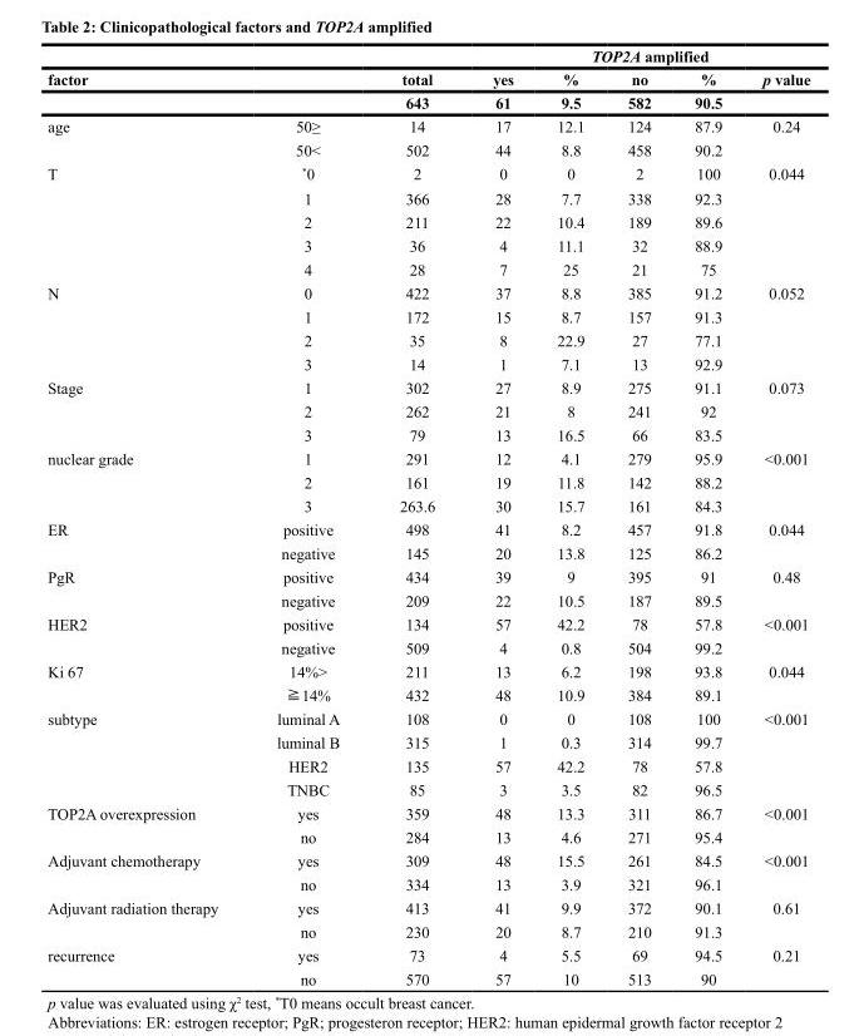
<table><thead><tr><td rowspan="3">factor</td><td rowspan="3"></td><td rowspan="3">total 643</td><td colspan="5">TOP2A amplified</td></tr><tr><td rowspan="2">yes 61</td><td rowspan="2">% 9.5</td><td rowspan="2">no 582</td><td rowspan="2">% 90.5</td><td rowspan="2">p value</td></tr><tr></tr></thead><tbody><tr><td rowspan="2">age</td><td>50≥</td><td>14</td><td>17</td><td>12.1</td><td>124</td><td>87.9</td><td>0.24</td></tr><tr><td>50&lt;</td><td>502</td><td>44</td><td>8.8</td><td>458</td><td>90.2</td><td></td></tr><tr><td rowspan="5">T</td><td>*0</td><td>2</td><td>0</td><td>0</td><td>2</td><td>100</td><td>0.044</td></tr><tr><td>1</td><td>366</td><td>28</td><td>7.7</td><td>338</td><td>92.3</td><td></td></tr><tr><td>2</td><td>211</td><td>22</td><td>10.4</td><td>189</td><td>89.6</td><td></td></tr><tr><td>3</td><td>36</td><td>4</td><td>11.1</td><td>32</td><td>88.9</td><td></td></tr><tr><td>4</td><td>28</td><td>7</td><td>25</td><td>21</td><td>75</td><td></td></tr><tr><td rowspan="4">N</td><td>0</td><td>422</td><td>37</td><td>8.8</td><td>385</td><td>91.2</td><td>0.052</td></tr><tr><td>1</td><td>172</td><td>15</td><td>8.7</td><td>157</td><td>91.3</td><td></td></tr><tr><td>2</td><td>35</td><td>8</td><td>22.9</td><td>27</td><td>77.1</td><td></td></tr><tr><td>3</td><td>14</td><td>1</td><td>7.1</td><td>13</td><td>92.9</td><td></td></tr><tr><td rowspan="3">Stage</td><td>1</td><td>302</td><td>27</td><td>8.9</td><td>275</td><td>91.1</td><td>0.073</td></tr><tr><td>2</td><td>262</td><td>21</td><td>8</td><td>241</td><td>92</td><td></td></tr><tr><td>3</td><td>79</td><td>13</td><td>16.5</td><td>66</td><td>83.5</td><td></td></tr><tr><td rowspan="3">nuclear grade</td><td>1</td><td>291</td><td>12</td><td>4.1</td><td>279</td><td>95.9</td><td>&lt;0.001</td></tr><tr><td>2</td><td>161</td><td>19</td><td>11.8</td><td>142</td><td>88.2</td><td></td></tr><tr><td>3</td><td>263.6</td><td>30</td><td>15.7</td><td>161</td><td>84.3</td><td></td></tr><tr><td rowspan="2">ER</td><td>positive</td><td>498</td><td>41</td><td>8.2</td><td>457</td><td>91.8</td><td>0.044</td></tr><tr><td>negative</td><td>145</td><td>20</td><td>13.8</td><td>125</td><td>86.2</td><td></td></tr><tr><td rowspan="2">PgR</td><td>positive</td><td>434</td><td>39</td><td>9</td><td>395</td><td>91</td><td>0.48</td></tr><tr><td>negative</td><td>209</td><td>22</td><td>10.5</td><td>187</td><td>89.5</td><td></td></tr><tr><td rowspan="2">HER2</td><td>positive</td><td>134</td><td>57</td><td>42.2</td><td>78</td><td>57.8</td><td>&lt;0.001</td></tr><tr><td>negative</td><td>509</td><td>4</td><td>0.8</td><td>504</td><td>99.2</td><td></td></tr><tr><td rowspan="2">Ki 67</td><td>14%&gt;</td><td>211</td><td>13</td><td>6.2</td><td>198</td><td>93.8</td><td>0.044</td></tr><tr><td>≧14%</td><td>432</td><td>48</td><td>10.9</td><td>384</td><td>89.1</td><td></td></tr><tr><td rowspan="4">subtype</td><td>luminal A</td><td>108</td><td>0</td><td>0</td><td>108</td><td>100</td><td>&lt;0.001</td></tr><tr><td>luminal B</td><td>315</td><td>1</td><td>0.3</td><td>314</td><td>99.7</td><td></td></tr><tr><td>HER2</td><td>135</td><td>57</td><td>42.2</td><td>78</td><td>57.8</td><td></td></tr><tr><td>TNBC</td><td>85</td><td>3</td><td>3.5</td><td>82</td><td>96.5</td><td></td></tr><tr><td rowspan="2">TOP2A overexpression</td><td>yes</td><td>359</td><td>48</td><td>13.3</td><td>311</td><td>86.7</td><td>&lt;0.001</td></tr><tr><td>no</td><td>284</td><td>13</td><td>4.6</td><td>271</td><td>95.4</td><td></td></tr><tr><td rowspan="2">Adjuvant chemotherapy</td><td>yes</td><td>309</td><td>48</td><td>15.5</td><td>261</td><td>84.5</td><td>&lt;0.001</td></tr><tr><td>no</td><td>334</td><td>13</td><td>3.9</td><td>321</td><td>96.1</td><td></td></tr><tr><td rowspan="2">Adjuvant radiation therapy</td><td>yes</td><td>413</td><td>41</td><td>9.9</td><td>372</td><td>90.1</td><td>0.61</td></tr><tr><td>no</td><td>230</td><td>20</td><td>8.7</td><td>210</td><td>91.3</td><td></td></tr><tr><td rowspan="2">recurrence</td><td>yes</td><td>73</td><td>4</td><td>5.5</td><td>69</td><td>94.5</td><td>0.21</td></tr><tr><td>no</td><td>570</td><td>57</td><td>10</td><td>513</td><td>90</td><td></td></tr></tbody></table>